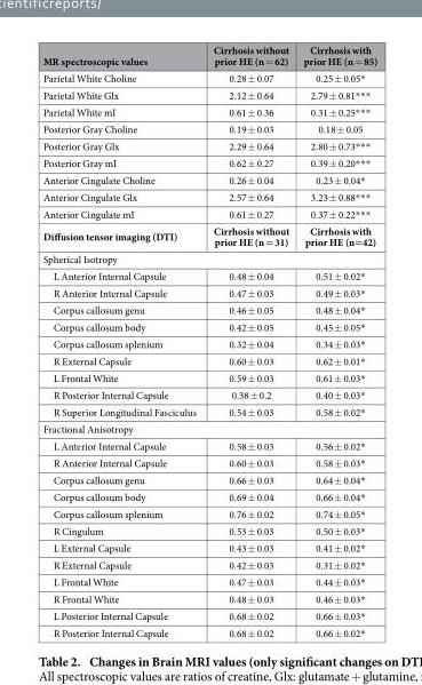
<table><thead><tr><td>MR spectroscopic values</td><td>Cirrhosis without prior HE (n = 62)</td><td>Cirrhosis with prior HE (n = 85)</td></tr></thead><tbody><tr><td>Parietal White Choline</td><td>0.28 ± 0.07</td><td>0.25 ± 0.05*</td></tr><tr><td>Parietal White Glx</td><td>2.12 ± 0.64</td><td>2.79 ± 0.81* * *</td></tr><tr><td>Parietal White mI</td><td>0.61 ± 0.36</td><td>0.31 ± 0.25* * *</td></tr><tr><td>Posterior Gray Choline</td><td>0.19 ± 0.03</td><td>0.18 ± 0.05</td></tr><tr><td>Posterior Gray Glx</td><td>2.29 ± 0.64</td><td>2.80 ± 0.73* * *</td></tr><tr><td>Posterior Gray mI</td><td>0.62 ± 0.27</td><td>0.39 ± 0.20* * *</td></tr><tr><td>Anterior Cingulate Choline</td><td>0.26 ± 0.04</td><td>0.23 ± 0.04*</td></tr><tr><td>Anterior Cingulate Glx</td><td>2.57 ± 0.64</td><td>3.23 ± 0.88* * *</td></tr><tr><td>Anterior Cingulate mI</td><td>0.61 ± 0.27</td><td>0.37 ± 0.22* * *</td></tr><tr><td>Diffusion tensor imaging (DTI)</td><td>Cirrhosis without prior HE (n = 31)</td><td>Cirrhosis with prior HE (n=42)</td></tr><tr><td colspan="3">Spherical Isotropy</td></tr><tr><td>L Anterior Internal Capsule</td><td>0.48 ± 0.04</td><td>0.51 ± 0.02*</td></tr><tr><td>R Anterior Internal Capsule</td><td>0.47 ± 0.03</td><td>0.49 ± 0.03*</td></tr><tr><td>Corpus callosum genu</td><td>0.46 ± 0.05</td><td>0.48 ± 0.04*</td></tr><tr><td>Corpus callosum body</td><td>0.42 ± 0.05</td><td>0.45 ± 0.05*</td></tr><tr><td>Corpus callosum splenium</td><td>0.32 ± 0.04</td><td>0.34 ± 0.03*</td></tr><tr><td>R External Capsule</td><td>0.60 ± 0.03</td><td>0.62 ± 0.01*</td></tr><tr><td>L Frontal White</td><td>0.59 ± 0.03</td><td>0.61 ± 0.03*</td></tr><tr><td>R Posterior Internal Capsule</td><td>0.38 ± 0.2</td><td>0.40 ± 0.03*</td></tr><tr><td>R Superior Longitudinal Fasciculus</td><td>0.54 ± 0.03</td><td>0.58 ± 0.02*</td></tr><tr><td colspan="3">Fractional Anisotropy</td></tr><tr><td>L Anterior Internal Capsule</td><td>0.58 ± 0.03</td><td>0.56 ± 0.02*</td></tr><tr><td>R Anterior Internal Capsule</td><td>0.60 ± 0.03</td><td>0.58 ± 0.03*</td></tr><tr><td>Corpus callosum genu</td><td>0.66 ± 0.03</td><td>0.64 ± 0.04*</td></tr><tr><td>Corpus callosum body</td><td>0.69 ± 0.04</td><td>0.66 ± 0.04*</td></tr><tr><td>Corpus callosum splenium</td><td>0.76 ± 0.02</td><td>0.74 ± 0.05*</td></tr><tr><td>R Cingulum</td><td>0.53 ± 0.03</td><td>0.50 ± 0.03*</td></tr><tr><td>L External Capsule</td><td>0.43 ± 0.03</td><td>0.41 ± 0.02*</td></tr><tr><td>R External Capsule</td><td>0.42 ± 0.03</td><td>0.31 ± 0.02*</td></tr><tr><td>L Frontal White</td><td>0.47 ± 0.03</td><td>0.44 ± 0.03*</td></tr><tr><td>R Frontal White</td><td>0.48 ± 0.03</td><td>0.46 ± 0.03*</td></tr><tr><td>L Posterior Internal Capsule</td><td>0.68 ± 0.02</td><td>0.66 ± 0.03*</td></tr><tr><td>R Posterior Internal Capsule</td><td>0.68 ± 0.02</td><td>0.66 ± 0.02*</td></tr></tbody></table>